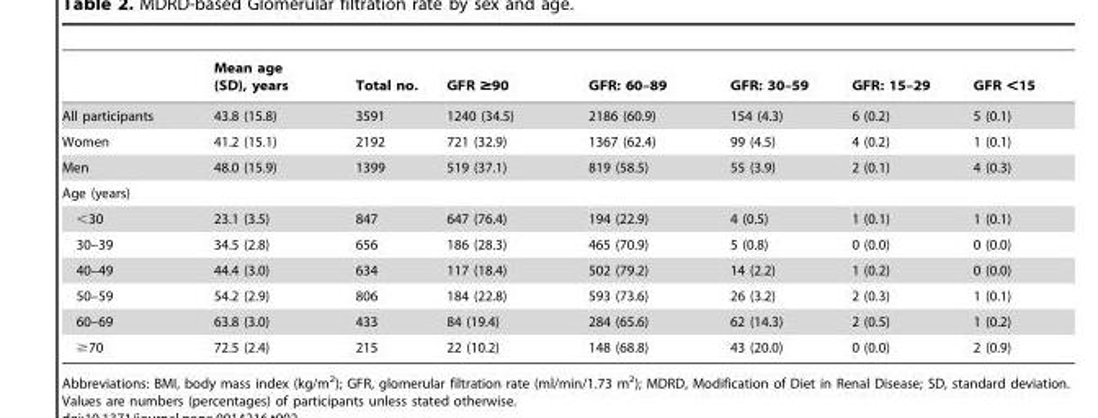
<table><thead><tr><td></td><td>Mean age (SD), years</td><td>Total no.</td><td>GFR ≥90</td><td>GFR: 60–89</td><td>GFR: 30–59</td><td>GFR: 15–29</td><td>GFR &lt;15</td></tr></thead><tbody><tr><td>All participants</td><td>43.8 (15.8)</td><td>3591</td><td>1240 (34.5)</td><td>2186 (60.9)</td><td>154 (4.3)</td><td>6 (0.2)</td><td>5 (0.1)</td></tr><tr><td>Women</td><td>41.2 (15.1)</td><td>2192</td><td>721 (32.9)</td><td>1367 (62.4)</td><td>99 (4.5)</td><td>4 (0.2)</td><td>1 (0.1)</td></tr><tr><td>Men</td><td>48.0 (15.9)</td><td>1399</td><td>519 (37.1)</td><td>819 (58.5)</td><td>55 (3.9)</td><td>2 (0.1)</td><td>4 (0.3)</td></tr><tr><td colspan="8">Age (years)</td></tr><tr><td>&lt;30</td><td>23.1 (3.5)</td><td>847</td><td>647 (76.4)</td><td>194 (22.9)</td><td>4 (0.5)</td><td>1 (0.1)</td><td>1 (0.1)</td></tr><tr><td>30–39</td><td>34.5 (2.8)</td><td>656</td><td>186 (28.3)</td><td>465 (70.9)</td><td>5 (0.8)</td><td>0 (0.0)</td><td>0 (0.0)</td></tr><tr><td>40–49</td><td>44.4 (3.0)</td><td>634</td><td>117 (18.4)</td><td>502 (79.2)</td><td>14 (2.2)</td><td>1 (0.2)</td><td>0 (0.0)</td></tr><tr><td>50–59</td><td>54.2 (2.9)</td><td>806</td><td>184 (22.8)</td><td>593 (73.6)</td><td>26 (3.2)</td><td>2 (0.3)</td><td>1 (0.1)</td></tr><tr><td>60–69</td><td>63.8 (3.0)</td><td>433</td><td>84 (19.4)</td><td>284 (65.6)</td><td>62 (14.3)</td><td>2 (0.5)</td><td>1 (0.2)</td></tr><tr><td>≥70</td><td>72.5 (2.4)</td><td>215</td><td>22 (10.2)</td><td>148 (68.8)</td><td>43 (20.0)</td><td>0 (0.0)</td><td>2 (0.9)</td></tr></tbody></table>